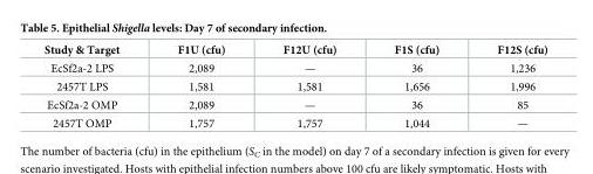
<table><thead><tr><td>Study &amp; Target</td><td>F1U (cfu)</td><td>F12U (cfu)</td><td>F1S (cfu)</td><td>F12S (cfu)</td></tr></thead><tbody><tr><td>EcSf2a-2 LPS</td><td>2,089</td><td>—</td><td>36</td><td>1,236</td></tr><tr><td>2457T LPS</td><td>1,581</td><td>1,581</td><td>1,656</td><td>1,996</td></tr><tr><td>EcSf2a-2 OMP</td><td>2,089</td><td>—</td><td>36</td><td>85</td></tr><tr><td>2457T OMP</td><td>1,757</td><td>1,757</td><td>1,044</td><td>—</td></tr></tbody></table>